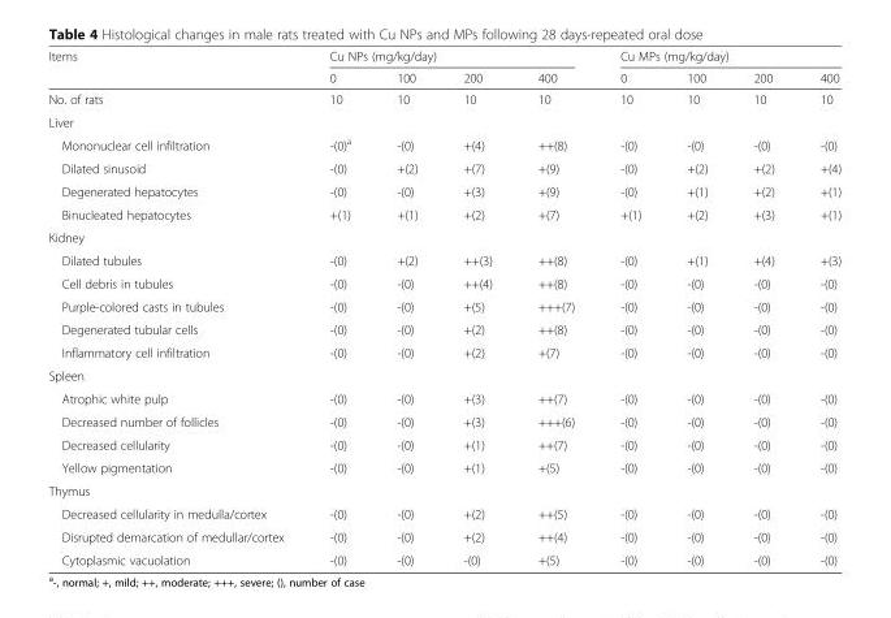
<table><thead><tr><td rowspan="2">Items</td><td colspan="4">Cu NPs (mg/kg/day)</td><td colspan="4">Cu MPs (mg/kg/day)</td></tr><tr><td>0</td><td>100</td><td>200</td><td>400</td><td>0</td><td>100</td><td>200</td><td>400</td></tr></thead><tbody><tr><td>No. of rats</td><td>10</td><td>10</td><td>10</td><td>10</td><td>10</td><td>10</td><td>10</td><td>10</td></tr><tr><td colspan="9">Liver</td></tr><tr><td>Mononuclear cell infiltration</td><td>-(0)<sup>a</sup></td><td>-(0)</td><td>+(4)</td><td>++(8)</td><td>-(0)</td><td>-(0)</td><td>-(0)</td><td>-(0)</td></tr><tr><td>Dilated sinusoid</td><td>-(0)</td><td>+(2)</td><td>+(7)</td><td>+(9)</td><td>-(0)</td><td>+(2)</td><td>+(2)</td><td>+(4)</td></tr><tr><td>Degenerated hepatocytes</td><td>-(0)</td><td>-(0)</td><td>+(3)</td><td>+(9)</td><td>-(0)</td><td>+(1)</td><td>+(2)</td><td>+(1)</td></tr><tr><td>Binucleated hepatocytes</td><td>+(1)</td><td>+(1)</td><td>+(2)</td><td>+(7)</td><td>+(1)</td><td>+(2)</td><td>+(3)</td><td>+(1)</td></tr><tr><td colspan="9">Kidney</td></tr><tr><td>Dilated tubules</td><td>-(0)</td><td>+(2)</td><td>++(3)</td><td>++(8)</td><td>-(0)</td><td>+(1)</td><td>+(4)</td><td>+(3)</td></tr><tr><td>Cell debris in tubules</td><td>-(0)</td><td>-(0)</td><td>++(4)</td><td>++(8)</td><td>-(0)</td><td>-(0)</td><td>-(0)</td><td>-(0)</td></tr><tr><td>Purple-colored casts in tubules</td><td>-(0)</td><td>-(0)</td><td>+(5)</td><td>+++(7)</td><td>-(0)</td><td>-(0)</td><td>-(0)</td><td>-(0)</td></tr><tr><td>Degenerated tubular cells</td><td>-(0)</td><td>-(0)</td><td>+(2)</td><td>++(8)</td><td>-(0)</td><td>-(0)</td><td>-(0)</td><td>-(0)</td></tr><tr><td>Inflammatory cell infiltration</td><td>-(0)</td><td>-(0)</td><td>+(2)</td><td>+(7)</td><td>-(0)</td><td>-(0)</td><td>-(0)</td><td>-(0)</td></tr><tr><td colspan="9">Spleen</td></tr><tr><td>Atrophic white pulp</td><td>-(0)</td><td>-(0)</td><td>+(3)</td><td>++(7)</td><td>-(0)</td><td>-(0)</td><td>-(0)</td><td>-(0)</td></tr><tr><td>Decreased number of follicles</td><td>-(0)</td><td>-(0)</td><td>+(3)</td><td>+++(6)</td><td>-(0)</td><td>-(0)</td><td>-(0)</td><td>-(0)</td></tr><tr><td>Decreased cellularity</td><td>-(0)</td><td>-(0)</td><td>+(1)</td><td>++(7)</td><td>-(0)</td><td>-(0)</td><td>-(0)</td><td>-(0)</td></tr><tr><td>Yellow pigmentation</td><td>-(0)</td><td>-(0)</td><td>+(1)</td><td>+(5)</td><td>-(0)</td><td>-(0)</td><td>-(0)</td><td>-(0)</td></tr><tr><td colspan="9">Thymus</td></tr><tr><td>Decreased cellularity in medulla/cortex</td><td>-(0)</td><td>-(0)</td><td>+(2)</td><td>++(5)</td><td>-(0)</td><td>-(0)</td><td>-(0)</td><td>-(0)</td></tr><tr><td>Disrupted demarcation of medullar/cortex</td><td>-(0)</td><td>-(0)</td><td>+(2)</td><td>++(4)</td><td>-(0)</td><td>-(0)</td><td>-(0)</td><td>-(0)</td></tr><tr><td>Cytoplasmic vacuolation</td><td>-(0)</td><td>-(0)</td><td>-(0)</td><td>+(5)</td><td>-(0)</td><td>-(0)</td><td>-(0)</td><td>-(0)</td></tr></tbody></table>